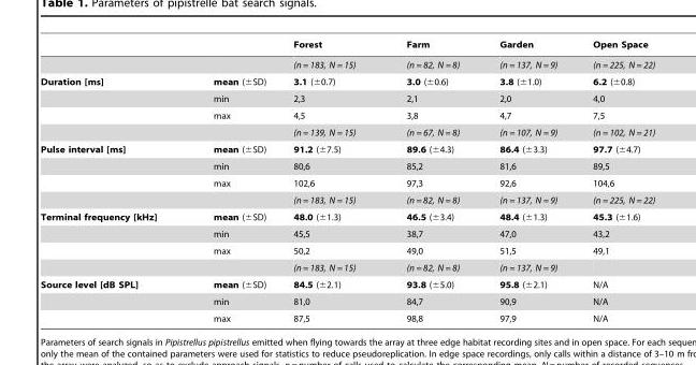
<table><thead><tr><td></td><td></td><td>Forest</td><td>Farm</td><td>Garden</td><td>Open Space</td></tr></thead><tbody><tr><td></td><td></td><td>(n = 183, N = 15)</td><td>(n = 82, N = 8)</td><td>(n = 137, N = 9)</td><td>(n = 225, N = 22)</td></tr><tr><td rowspan="4">Duration [ms]</td><td>mean (±SD)</td><td>3.1 (±0.7)</td><td>3.0 (±0.6)</td><td>3.8 (±1.0)</td><td>6.2 (±0.8)</td></tr><tr><td>min</td><td>2,3</td><td>2,1</td><td>2,0</td><td>4,0</td></tr><tr><td>max</td><td>4,5</td><td>3,8</td><td>4,7</td><td>7,5</td></tr><tr><td></td><td>(n = 139, N = 15)</td><td>(n = 67, N = 8)</td><td>(n = 107, N = 9)</td><td>(n = 102, N = 21)</td></tr><tr><td rowspan="4">Pulse interval [ms]</td><td>mean (±SD)</td><td>91.2 (±7.5)</td><td>89.6 (±4.3)</td><td>86.4 (±3.3)</td><td>97.7 (±4.7)</td></tr><tr><td>min</td><td>80,6</td><td>85,2</td><td>81,6</td><td>89,5</td></tr><tr><td>max</td><td>102,6</td><td>97,3</td><td>92,6</td><td>104,6</td></tr><tr><td></td><td>(n = 183, N = 15)</td><td>(n = 82, N = 8)</td><td>(n = 137, N = 9)</td><td>(n = 225, N = 22)</td></tr><tr><td rowspan="4">Terminal frequency [kHz]</td><td>mean (±SD)</td><td>48.0 (±1.3)</td><td>46.5 (±3.4)</td><td>48.4 (±1.3)</td><td>45.3 (±1.6)</td></tr><tr><td>min</td><td>45,5</td><td>38,7</td><td>47,0</td><td>43,2</td></tr><tr><td>max</td><td>50,2</td><td>49,0</td><td>51,5</td><td>49,1</td></tr><tr><td></td><td>(n = 183, N = 15)</td><td>(n = 82, N = 8)</td><td>(n = 137, N = 9)</td><td></td></tr><tr><td rowspan="3">Source level [dB SPL]</td><td>mean (±SD)</td><td>84.5 (±2.1)</td><td>93.8 (±5.0)</td><td>95.8 (±2.1)</td><td>N/A</td></tr><tr><td>min</td><td>81,0</td><td>84,7</td><td>90,9</td><td>N/A</td></tr><tr><td>max</td><td>87,5</td><td>98,8</td><td>97,9</td><td>N/A</td></tr></tbody></table>